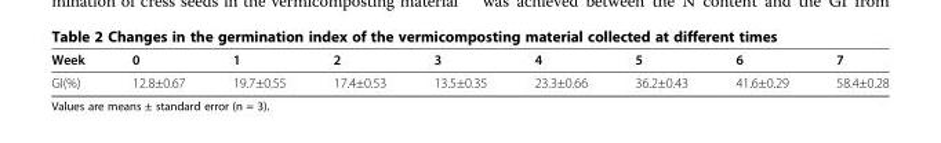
<table><thead><tr><td>Week</td><td>0</td><td>1</td><td>2</td><td>3</td><td>4</td><td>5</td><td>6</td><td>7</td></tr></thead><tbody><tr><td>GI(%)</td><td>12.8±0.67</td><td>19.7±0.55</td><td>17.4±0.53</td><td>13.5±0.35</td><td>23.3±0.66</td><td>36.2±0.43</td><td>41.6±0.29</td><td>58.4±0.28</td></tr></tbody></table>